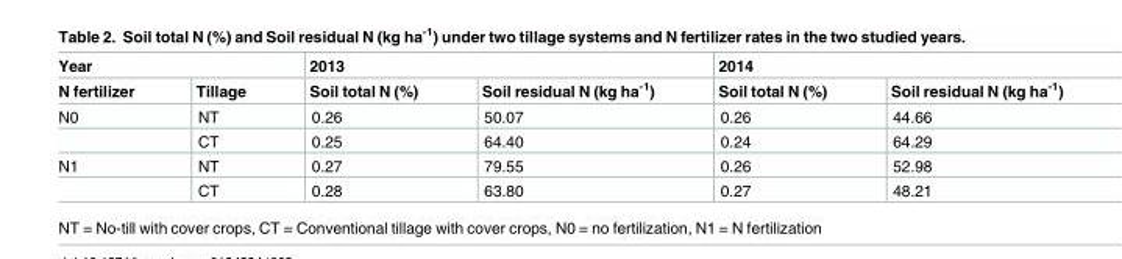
<table><thead><tr><td colspan="2">Year</td><td colspan="2">2013</td><td colspan="2">2014</td></tr><tr><td>N fertilizer</td><td>Tillage</td><td>Soil total N (%)</td><td>Soil residual N (kg ha<sup>-1</sup>)</td><td>Soil total N (%)</td><td>Soil residual N (kg ha<sup>-1</sup>)</td></tr></thead><tbody><tr><td rowspan="2">N0</td><td>NT</td><td>0.26</td><td>50.07</td><td>0.26</td><td>44.66</td></tr><tr><td>CT</td><td>0.25</td><td>64.40</td><td>0.24</td><td>64.29</td></tr><tr><td rowspan="2">N1</td><td>NT</td><td>0.27</td><td>79.55</td><td>0.26</td><td>52.98</td></tr><tr><td>CT</td><td>0.28</td><td>63.80</td><td>0.27</td><td>48.21</td></tr></tbody></table>